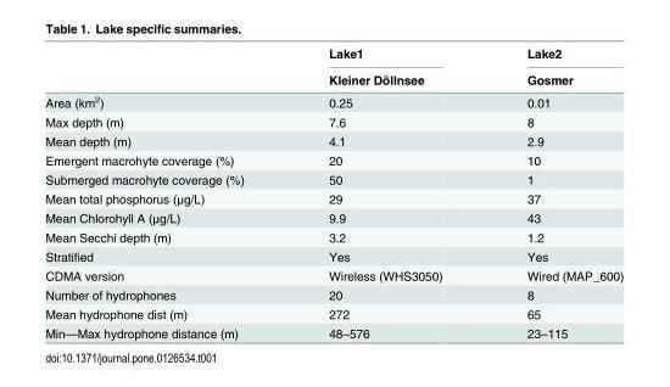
<table><thead><tr><td rowspan="2"></td><td rowspan="2">Lake1 Kleiner Döllnsee</td><td rowspan="2">Lake2 Gosmer</td></tr><tr></tr></thead><tbody><tr><td>Area (km<sup>2</sup>)</td><td>0.25</td><td>0.01</td></tr><tr><td>Max depth (m)</td><td>7.6</td><td>8</td></tr><tr><td>Mean depth (m)</td><td>4.1</td><td>2.9</td></tr><tr><td>Emergent macrohyte coverage (%)</td><td>20</td><td>10</td></tr><tr><td>Submerged macrohyte coverage (%)</td><td>50</td><td>1</td></tr><tr><td>Mean total phosphorus (μg/L)</td><td>29</td><td>37</td></tr><tr><td>Mean Chlorohyll A (μg/L)</td><td>9.9</td><td>43</td></tr><tr><td>Mean Secchi depth (m)</td><td>3.2</td><td>1.2</td></tr><tr><td>Stratified</td><td>Yes</td><td>Yes</td></tr><tr><td>CDMA version</td><td>Wireless (WHS3050)</td><td>Wired (MAP_600)</td></tr><tr><td>Number of hydrophones</td><td>20</td><td>8</td></tr><tr><td>Mean hydrophone dist (m)</td><td>272</td><td>65</td></tr><tr><td>Min—Max hydrophone distance (m)</td><td>48–576</td><td>23–115</td></tr></tbody></table>